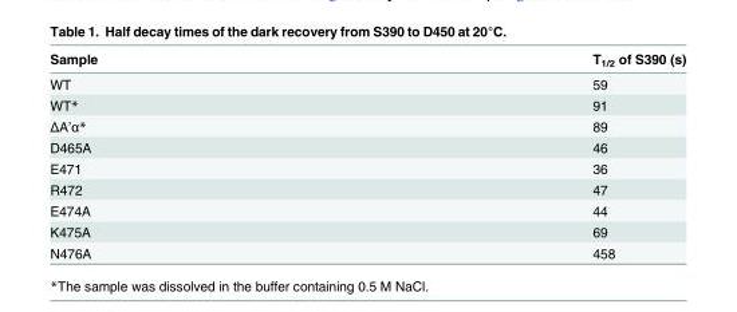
<table><thead><tr><td>Sample</td><td>T<sub>1/2</sub> of S390 (s)</td></tr></thead><tbody><tr><td>WT</td><td>59</td></tr><tr><td>WT*</td><td>91</td></tr><tr><td>ΔA’α*</td><td>89</td></tr><tr><td>D465A</td><td>46</td></tr><tr><td>E471</td><td>36</td></tr><tr><td>R472</td><td>47</td></tr><tr><td>E474A</td><td>44</td></tr><tr><td>K475A</td><td>69</td></tr><tr><td>N476A</td><td>458</td></tr></tbody></table>